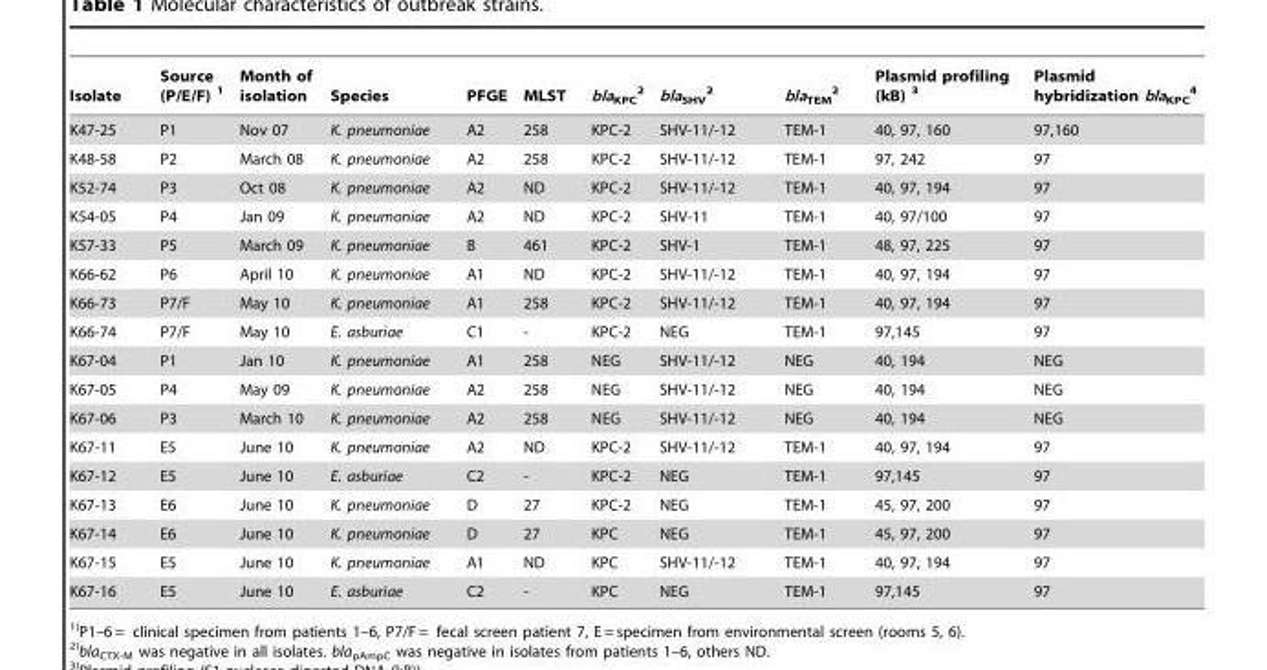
<table><thead><tr><td>Isolate</td><td>Source (P/E/F) <sup>1</sup></td><td>Month of isolation</td><td>Species</td><td>PFGE</td><td>MLST</td><td>bla<sub>KPC</sub> <sup>2</sup></td><td>bla<sub>SHV</sub> <sup>2</sup></td><td>bla<sub>TEM</sub> <sup>2</sup></td><td>Plasmid profiling (kB) <sup>3</sup></td><td>Plasmid hybridization bla<sub>KPC</sub> <sup>4</sup></td></tr></thead><tbody><tr><td>K47-25</td><td>P1</td><td>Nov 07</td><td>K. pneumoniae</td><td>A2</td><td>258</td><td>KPC-2</td><td>SHV-11/-12</td><td>TEM-1</td><td>40, 97, 160</td><td>97,160</td></tr><tr><td>K48-58</td><td>P2</td><td>March 08</td><td>K. pneumoniae</td><td>A2</td><td>258</td><td>KPC-2</td><td>SHV-11/-12</td><td>TEM-1</td><td>97, 242</td><td>97</td></tr><tr><td>K52-74</td><td>P3</td><td>Oct 08</td><td>K. pneumoniae</td><td>A2</td><td>ND</td><td>KPC-2</td><td>SHV-11/-12</td><td>TEM-1</td><td>40, 97, 194</td><td>97</td></tr><tr><td>K54-05</td><td>P4</td><td>Jan 09</td><td>K. pneumoniae</td><td>A2</td><td>ND</td><td>KPC-2</td><td>SHV-11</td><td>TEM-1</td><td>40, 97/100</td><td>97</td></tr><tr><td>K57-33</td><td>P5</td><td>March 09</td><td>K. pneumoniae</td><td>B</td><td>461</td><td>KPC-2</td><td>SHV-1</td><td>TEM-1</td><td>48, 97, 225</td><td>97</td></tr><tr><td>K66-62</td><td>P6</td><td>April 10</td><td>K. pneumoniae</td><td>A1</td><td>ND</td><td>KPC-2</td><td>SHV-11/-12</td><td>TEM-1</td><td>40, 97, 194</td><td>97</td></tr><tr><td>K66-73</td><td>P7/F</td><td>May 10</td><td>K. pneumoniae</td><td>A1</td><td>258</td><td>KPC-2</td><td>SHV-11/-12</td><td>TEM-1</td><td>40, 97, 194</td><td>97</td></tr><tr><td>K66-74</td><td>P7/F</td><td>May 10</td><td>E. asburiae</td><td>C1</td><td>-</td><td>KPC-2</td><td>NEG</td><td>TEM-1</td><td>97,145</td><td>97</td></tr><tr><td>K67-04</td><td>P1</td><td>Jan 10</td><td>K. pneumoniae</td><td>A1</td><td>258</td><td>NEG</td><td>SHV-11/-12</td><td>NEG</td><td>40, 194</td><td>NEG</td></tr><tr><td>K67-05</td><td>P4</td><td>May 09</td><td>K. pneumoniae</td><td>A2</td><td>258</td><td>NEG</td><td>SHV-11/-12</td><td>NEG</td><td>40, 194</td><td>NEG</td></tr><tr><td>K67-06</td><td>P3</td><td>March 10</td><td>K. pneumoniae</td><td>A2</td><td>258</td><td>NEG</td><td>SHV-11/-12</td><td>NEG</td><td>40, 194</td><td>NEG</td></tr><tr><td>K67-11</td><td>E5</td><td>June 10</td><td>K. pneumoniae</td><td>A2</td><td>ND</td><td>KPC-2</td><td>SHV-11/-12</td><td>TEM-1</td><td>40, 97, 194</td><td>97</td></tr><tr><td>K67-12</td><td>E5</td><td>June 10</td><td>E. asburiae</td><td>C2</td><td>-</td><td>KPC-2</td><td>NEG</td><td>TEM-1</td><td>97,145</td><td>97</td></tr><tr><td>K67-13</td><td>E6</td><td>June 10</td><td>K. pneumoniae</td><td>D</td><td>27</td><td>KPC-2</td><td>NEG</td><td>TEM-1</td><td>45, 97, 200</td><td>97</td></tr><tr><td>K67-14</td><td>E6</td><td>June 10</td><td>K. pneumoniae</td><td>D</td><td>27</td><td>KPC</td><td>NEG</td><td>TEM-1</td><td>45, 97, 200</td><td>97</td></tr><tr><td>K67-15</td><td>E5</td><td>June 10</td><td>K. pneumoniae</td><td>A1</td><td>ND</td><td>KPC</td><td>SHV-11/-12</td><td>TEM-1</td><td>40, 97, 194</td><td>97</td></tr><tr><td>K67-16</td><td>E5</td><td>June 10</td><td>E. asburiae</td><td>C2</td><td>-</td><td>KPC</td><td>NEG</td><td>TEM-1</td><td>97,145</td><td>97</td></tr></tbody></table>